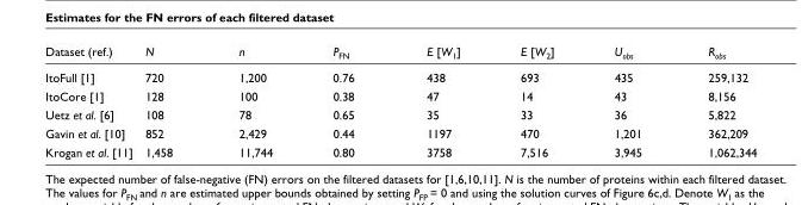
<table><thead><tr><td>Dataset (ref.)</td><td>N</td><td>n</td><td>P<sub>FN</sub></td><td>E [W<sub>1</sub>]</td><td>E [W<sub>2</sub>]</td><td>U<sub>obs</sub></td><td>R<sub>obs</sub></td></tr></thead><tbody><tr><td>ItoFull [1]</td><td>720</td><td>1,200</td><td>0.76</td><td>438</td><td>693</td><td>435</td><td>259,132</td></tr><tr><td>ItoCore [1]</td><td>128</td><td>100</td><td>0.38</td><td>47</td><td>14</td><td>43</td><td>8,156</td></tr><tr><td>Uetz et al. [6]</td><td>108</td><td>78</td><td>0.65</td><td>35</td><td>33</td><td>36</td><td>5,822</td></tr><tr><td>Gavin et al. [10]</td><td>852</td><td>2,429</td><td>0.44</td><td>1197</td><td>470</td><td>1,201</td><td>362,209</td></tr><tr><td>Krogan et al. [11]</td><td>1,458</td><td>11,744</td><td>0.80</td><td>3758</td><td>7,516</td><td>3,945</td><td>1,062,344</td></tr></tbody></table>